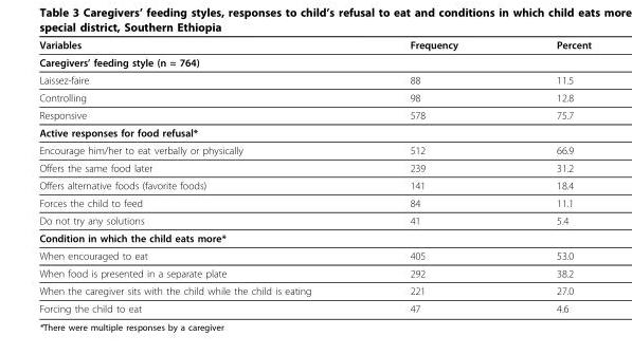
<table><thead><tr><td>Variables</td><td>Frequency</td><td>Percent</td></tr></thead><tbody><tr><td colspan="3">Caregivers’ feeding style (n = 764)</td></tr><tr><td>Laissez-faire</td><td>88</td><td>11.5</td></tr><tr><td>Controlling</td><td>98</td><td>12.8</td></tr><tr><td>Responsive</td><td>578</td><td>75.7</td></tr><tr><td colspan="3">Active responses for food refusal*</td></tr><tr><td>Encourage him/her to eat verbally or physically</td><td>512</td><td>66.9</td></tr><tr><td>Offers the same food later</td><td>239</td><td>31.2</td></tr><tr><td>Offers alternative foods (favorite foods)</td><td>141</td><td>18.4</td></tr><tr><td>Forces the child to feed</td><td>84</td><td>11.1</td></tr><tr><td>Do not try any solutions</td><td>41</td><td>5.4</td></tr><tr><td colspan="3">Condition in which the child eats more*</td></tr><tr><td>When encouraged to eat</td><td>405</td><td>53.0</td></tr><tr><td>When food is presented in a separate plate</td><td>292</td><td>38.2</td></tr><tr><td>When the caregiver sits with the child while the child is eating</td><td>221</td><td>27.0</td></tr><tr><td>Forcing the child to eat</td><td>47</td><td>4.6</td></tr></tbody></table>